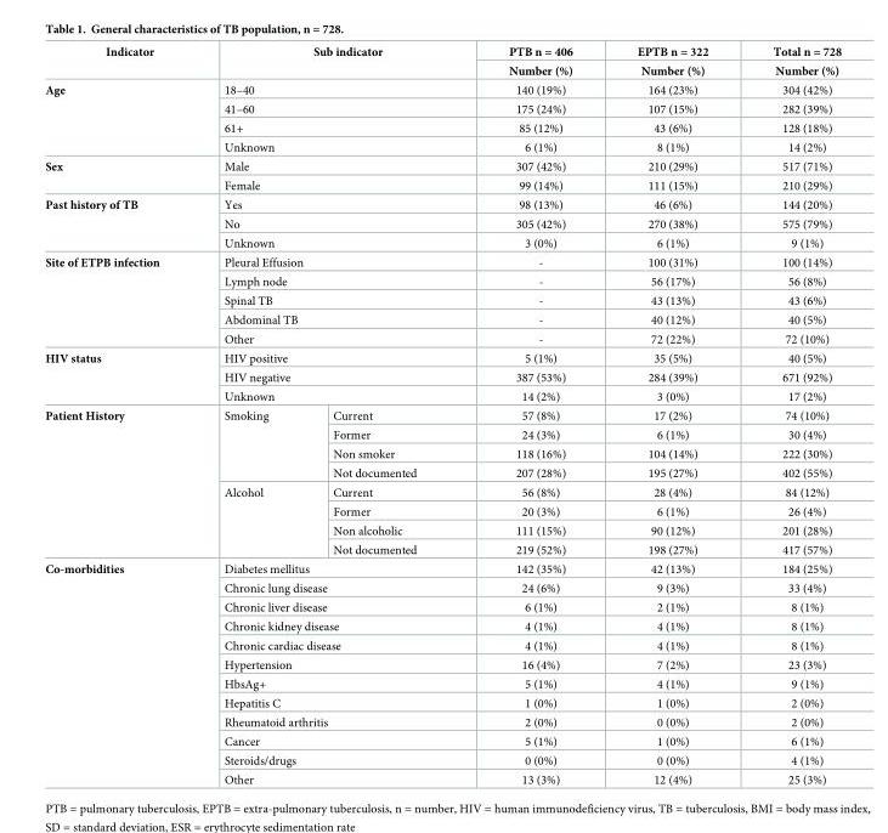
<table><thead><tr><td rowspan="2">Indicator</td><td rowspan="2" colspan="2">Sub indicator</td><td rowspan="2">PTB n = 406 Number (%)</td><td rowspan="2">EPTB n = 322 Number (%)</td><td rowspan="2">Total n = 728 Number (%)</td></tr><tr></tr></thead><tbody><tr><td rowspan="4">Age</td><td colspan="2">18–40</td><td>140 (19%)</td><td>164 (23%)</td><td>304 (42%)</td></tr><tr><td colspan="2">41–60</td><td>175 (24%)</td><td>107 (15%)</td><td>282 (39%)</td></tr><tr><td colspan="2">61+</td><td>85 (12%)</td><td>43 (6%)</td><td>128 (18%)</td></tr><tr><td colspan="2">Unknown</td><td>6 (1%)</td><td>8 (1%)</td><td>14 (2%)</td></tr><tr><td rowspan="2">Sex</td><td colspan="2">Male</td><td>307 (42%)</td><td>210 (29%)</td><td>517 (71%)</td></tr><tr><td colspan="2">Female</td><td>99 (14%)</td><td>111 (15%)</td><td>210 (29%)</td></tr><tr><td rowspan="3">Past history of TB</td><td colspan="2">Yes</td><td>98 (13%)</td><td>46 (6%)</td><td>144 (20%)</td></tr><tr><td colspan="2">No</td><td>305 (42%)</td><td>270 (38%)</td><td>575 (79%)</td></tr><tr><td colspan="2">Unknown</td><td>3 (0%)</td><td>6 (1%)</td><td>9 (1%)</td></tr><tr><td rowspan="5">Site of ETPB infection</td><td colspan="2">Pleural Effusion</td><td>-</td><td>100 (31%)</td><td>100 (14%)</td></tr><tr><td colspan="2">Lymph node</td><td>-</td><td>56 (17%)</td><td>56 (8%)</td></tr><tr><td colspan="2">Spinal TB</td><td>-</td><td>43 (13%)</td><td>43 (6%)</td></tr><tr><td colspan="2">Abdominal TB</td><td>-</td><td>40 (12%)</td><td>40 (5%)</td></tr><tr><td colspan="2">Other</td><td>-</td><td>72 (22%)</td><td>72 (10%)</td></tr><tr><td rowspan="3">HIV status</td><td colspan="2">HIV positive</td><td>5 (1%)</td><td>35 (5%)</td><td>40 (5%)</td></tr><tr><td colspan="2">HIV negative</td><td>387 (53%)</td><td>284 (39%)</td><td>671 (92%)</td></tr><tr><td colspan="2">Unknown</td><td>14 (2%)</td><td>3 (0%)</td><td>17 (2%)</td></tr><tr><td rowspan="8">Patient History</td><td rowspan="4">Smoking</td><td>Current</td><td>57 (8%)</td><td>17 (2%)</td><td>74 (10%)</td></tr><tr><td>Former</td><td>24 (3%)</td><td>6 (1%)</td><td>30 (4%)</td></tr><tr><td>Non smoker</td><td>118 (16%)</td><td>104 (14%)</td><td>222 (30%)</td></tr><tr><td>Not documented</td><td>207 (28%)</td><td>195 (27%)</td><td>402 (55%)</td></tr><tr><td rowspan="4">Alcohol</td><td>Current</td><td>56 (8%)</td><td>28 (4%)</td><td>84 (12%)</td></tr><tr><td>Former</td><td>20 (3%)</td><td>6 (1%)</td><td>26 (4%)</td></tr><tr><td>Non alcoholic</td><td>111 (15%)</td><td>90 (12%)</td><td>201 (28%)</td></tr><tr><td>Not documented</td><td>219 (52%)</td><td>198 (27%)</td><td>417 (57%)</td></tr><tr><td rowspan="12">Co-morbidities</td><td colspan="2">Diabetes mellitus</td><td>142 (35%)</td><td>42 (13%)</td><td>184 (25%)</td></tr><tr><td colspan="2">Chronic lung disease</td><td>24 (6%)</td><td>9 (3%)</td><td>33 (4%)</td></tr><tr><td colspan="2">Chronic liver disease</td><td>6 (1%)</td><td>2 (1%)</td><td>8 (1%)</td></tr><tr><td colspan="2">Chronic kidney disease</td><td>4 (1%)</td><td>4 (1%)</td><td>8 (1%)</td></tr><tr><td colspan="2">Chronic cardiac disease</td><td>4 (1%)</td><td>4 (1%)</td><td>8 (1%)</td></tr><tr><td colspan="2">Hypertension</td><td>16 (4%)</td><td>7 (2%)</td><td>23 (3%)</td></tr><tr><td colspan="2">HbsAg+</td><td>5 (1%)</td><td>4 (1%)</td><td>9 (1%)</td></tr><tr><td colspan="2">Hepatitis C</td><td>1 (0%)</td><td>1 (0%)</td><td>2 (0%)</td></tr><tr><td colspan="2">Rheumatoid arthritis</td><td>2 (0%)</td><td>0 (0%)</td><td>2 (0%)</td></tr><tr><td colspan="2">Cancer</td><td>5 (1%)</td><td>1 (0%)</td><td>6 (1%)</td></tr><tr><td colspan="2">Steroids/drugs</td><td>0 (0%)</td><td>0 (0%)</td><td>4 (1%)</td></tr><tr><td colspan="2">Other</td><td>13 (3%)</td><td>12 (4%)</td><td>25 (3%)</td></tr></tbody></table>